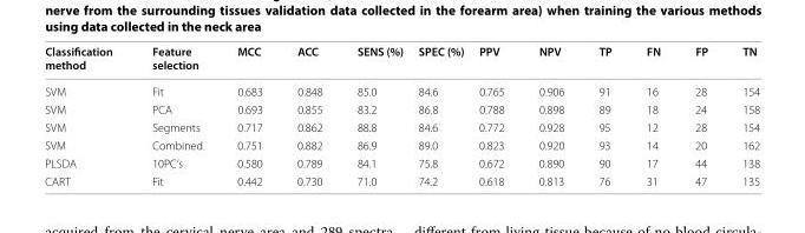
<table><thead><tr><td>Classification method</td><td>Feature selection</td><td>MCC</td><td>ACC</td><td>SENS (%)</td><td>SPEC (%)</td><td>PPV</td><td>NPV</td><td>TP</td><td>FN</td><td>FP</td><td>TN</td></tr></thead><tbody><tr><td>SVM</td><td>Fit</td><td>0.683</td><td>0.848</td><td>85.0</td><td>84.6</td><td>0.765</td><td>0.906</td><td>91</td><td>16</td><td>28</td><td>154</td></tr><tr><td>SVM</td><td>PCA</td><td>0.693</td><td>0.855</td><td>83.2</td><td>86.8</td><td>0.788</td><td>0.898</td><td>89</td><td>18</td><td>24</td><td>158</td></tr><tr><td>SVM</td><td>Segments</td><td>0.717</td><td>0.862</td><td>88.8</td><td>84.6</td><td>0.772</td><td>0.928</td><td>95</td><td>12</td><td>28</td><td>154</td></tr><tr><td>SVM</td><td>Combined</td><td>0.751</td><td>0.882</td><td>86.9</td><td>89.0</td><td>0.823</td><td>0.920</td><td>93</td><td>14</td><td>20</td><td>162</td></tr><tr><td>PLSDA</td><td>10PC’s</td><td>0.580</td><td>0.789</td><td>84.1</td><td>75.8</td><td>0.672</td><td>0.890</td><td>90</td><td>17</td><td>44</td><td>138</td></tr><tr><td>CART</td><td>Fit</td><td>0.442</td><td>0.730</td><td>71.0</td><td>74.2</td><td>0.618</td><td>0.813</td><td>76</td><td>31</td><td>47</td><td>135</td></tr></tbody></table>